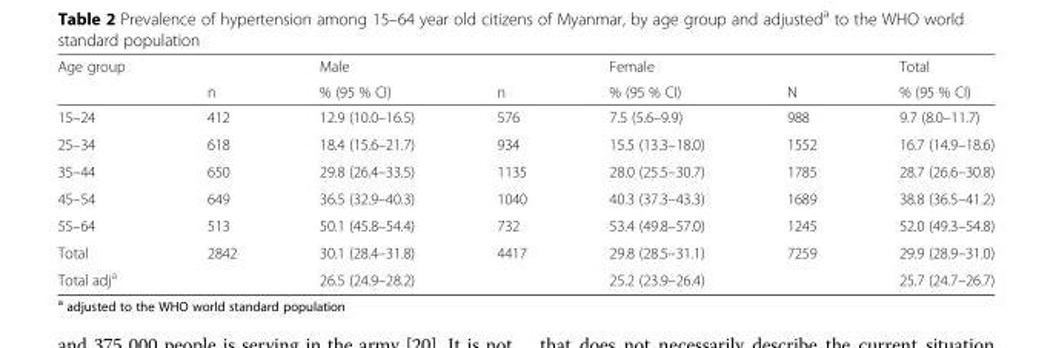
<table><thead><tr><td rowspan="2">Age group</td><td rowspan="2">n</td><td rowspan="2">Male % (95 % CI)</td><td rowspan="2">n</td><td rowspan="2">Female % (95 % CI)</td><td rowspan="2">N</td><td rowspan="2">Total % (95 % CI)</td></tr><tr></tr></thead><tbody><tr><td>15–24</td><td>412</td><td>12.9 (10.0–16.5)</td><td>576</td><td>7.5 (5.6–9.9)</td><td>988</td><td>9.7 (8.0–11.7)</td></tr><tr><td>25–34</td><td>618</td><td>18.4 (15.6–21.7)</td><td>934</td><td>15.5 (13.3–18.0)</td><td>1552</td><td>16.7 (14.9–18.6)</td></tr><tr><td>35–44</td><td>650</td><td>29.8 (26.4–33.5)</td><td>1135</td><td>28.0 (25.5–30.7)</td><td>1785</td><td>28.7 (26.6–30.8)</td></tr><tr><td>45–54</td><td>649</td><td>36.5 (32.9–40.3)</td><td>1040</td><td>40.3 (37.3–43.3)</td><td>1689</td><td>38.8 (36.5–41.2)</td></tr><tr><td>55–64</td><td>513</td><td>50.1 (45.8–54.4)</td><td>732</td><td>53.4 (49.8–57.0)</td><td>1245</td><td>52.0 (49.3–54.8)</td></tr><tr><td>Total</td><td>2842</td><td>30.1 (28.4–31.8)</td><td>4417</td><td>29.8 (28.5–31.1)</td><td>7259</td><td>29.9 (28.9–31.0)</td></tr><tr><td>Total adj<sup>a</sup></td><td></td><td>26.5 (24.9–28.2)</td><td></td><td>25.2 (23.9–26.4)</td><td></td><td>25.7 (24.7–26.7)</td></tr></tbody></table>